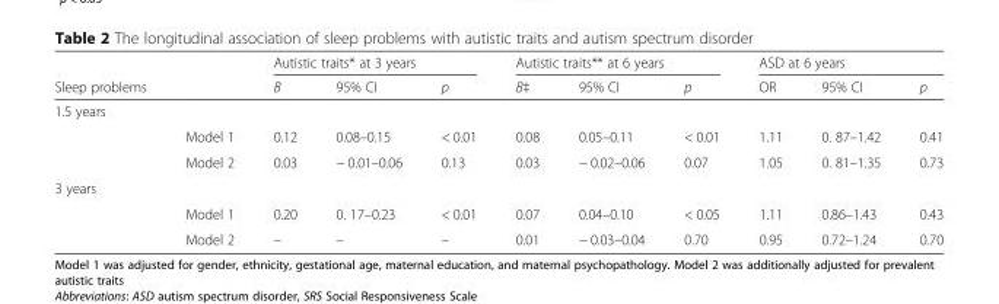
<table><thead><tr><td rowspan="2">Sleep problems</td><td rowspan="2"></td><td colspan="3">Autistic traits* at 3 years</td><td colspan="3">Autistic traits** at 6 years</td><td colspan="3">ASD at 6 years</td></tr><tr><td>B</td><td>95% CI</td><td>p</td><td>B‡</td><td>95% CI</td><td>p</td><td>OR</td><td>95% CI</td><td>p</td></tr></thead><tbody><tr><td colspan="11">1.5 years</td></tr><tr><td></td><td>Model 1</td><td>0.12</td><td>0.08–0.15</td><td>&lt; 0.01</td><td>0.08</td><td>0.05–0.11</td><td>&lt; 0.01</td><td>1.11</td><td>0. 87–1.42</td><td>0.41</td></tr><tr><td></td><td>Model 2</td><td>0.03</td><td>− 0.01–0.06</td><td>0.13</td><td>0.03</td><td>− 0.02–0.06</td><td>0.07</td><td>1.05</td><td>0. 81–1.35</td><td>0.73</td></tr><tr><td colspan="11">3 years</td></tr><tr><td></td><td>Model 1</td><td>0.20</td><td>0. 17–0.23</td><td>&lt; 0.01</td><td>0.07</td><td>0.04–0.10</td><td>&lt; 0.05</td><td>1.11</td><td>0.86–1.43</td><td>0.43</td></tr><tr><td></td><td>Model 2</td><td>–</td><td>–</td><td>–</td><td>0.01</td><td>− 0.03–0.04</td><td>0.70</td><td>0.95</td><td>0.72–1.24</td><td>0.70</td></tr></tbody></table>